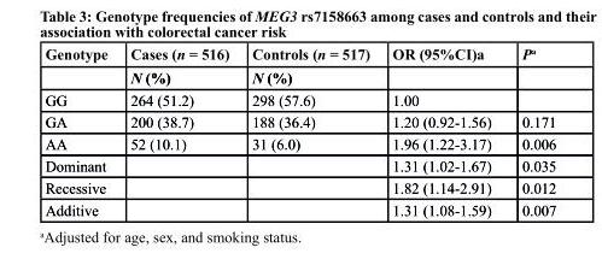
<table><thead><tr><td rowspan="2">Genotype</td><td rowspan="2">cases (n = 516) N (%)</td><td rowspan="2">controls (n = 517) N (%)</td><td rowspan="2">or (95%cI)a</td><td rowspan="2">P<sup>a</sup></td></tr><tr></tr></thead><tbody><tr><td>GG</td><td>264 (51.2)</td><td>298 (57.6)</td><td>1.00</td><td></td></tr><tr><td>GA</td><td>200 (38.7)</td><td>188 (36.4)</td><td>1.20 (0.92-1.56)</td><td>0.171</td></tr><tr><td>AA</td><td>52 (10.1)</td><td>31 (6.0)</td><td>1.96 (1.22-3.17)</td><td>0.006</td></tr><tr><td>Dominant</td><td></td><td></td><td>1.31 (1.02-1.67)</td><td>0.035</td></tr><tr><td>Recessive</td><td></td><td></td><td>1.82 (1.14-2.91)</td><td>0.012</td></tr><tr><td>Additive</td><td></td><td></td><td>1.31 (1.08-1.59)</td><td>0.007</td></tr></tbody></table>